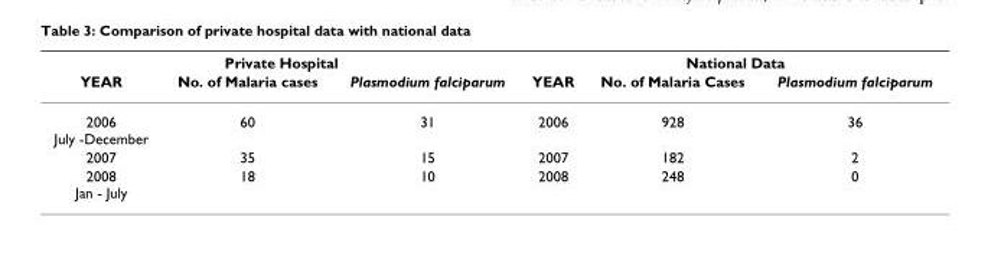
<table><thead><tr><td colspan="3">Private Hospital</td><td colspan="3">National Data</td></tr><tr><td>YEAR</td><td>No. of Malaria cases</td><td>Plasmodium falciparum</td><td>YEAR</td><td>No. of Malaria Cases</td><td>Plasmodium falciparum</td></tr></thead><tbody><tr><td>2006 July -December</td><td>60</td><td>31</td><td>2006</td><td>928</td><td>36</td></tr><tr><td>2007</td><td>35</td><td>15</td><td>2007</td><td>182</td><td>2</td></tr><tr><td>2008 Jan - July</td><td>18</td><td>10</td><td>2008</td><td>248</td><td>0</td></tr></tbody></table>